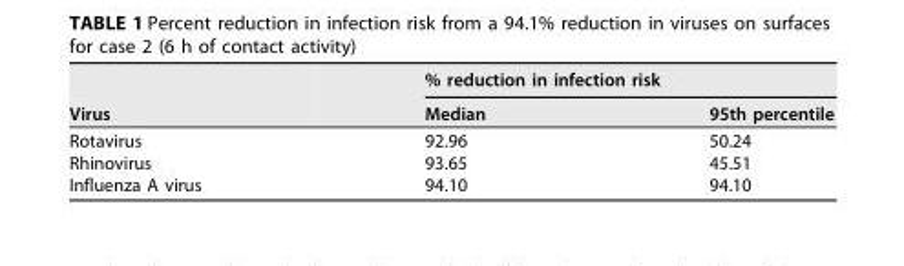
<table><thead><tr><td rowspan="2">Virus</td><td colspan="2">% reduction in infection risk</td></tr><tr><td>Median</td><td>95th percentile</td></tr></thead><tbody><tr><td>Rotavirus</td><td>92.96</td><td>50.24</td></tr><tr><td>Rhinovirus</td><td>93.65</td><td>45.51</td></tr><tr><td>Influenza A virus</td><td>94.10</td><td>94.10</td></tr></tbody></table>